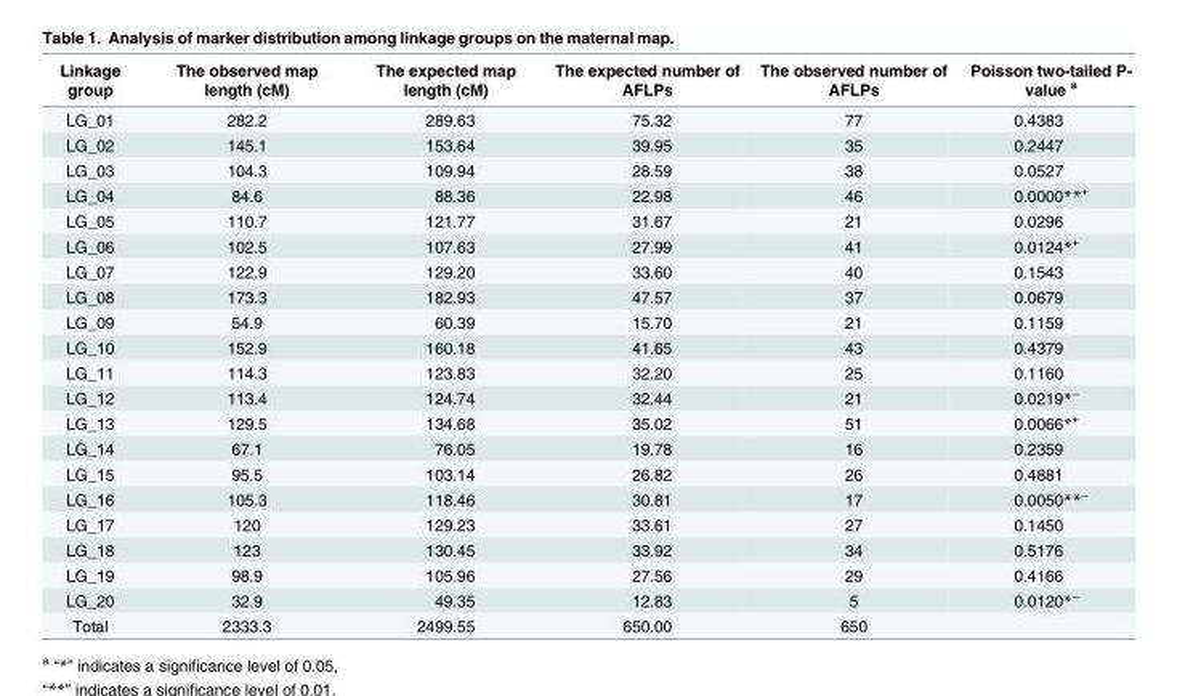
<table><thead><tr><td>Linkage group</td><td>The observed map length (cM)</td><td>The expected map length (cM)</td><td>The expected number of AFLPs</td><td>The observed number of AFLPs</td><td>Poisson two-tailed P- value <sup>a</sup></td></tr></thead><tbody><tr><td>LG_01</td><td>282.2</td><td>289.63</td><td>75.32</td><td>77</td><td>0.4383</td></tr><tr><td>LG_02</td><td>145.1</td><td>153.64</td><td>39.95</td><td>35</td><td>0.2447</td></tr><tr><td>LG_03</td><td>104.3</td><td>109.94</td><td>28.59</td><td>38</td><td>0.0527</td></tr><tr><td>LG_04</td><td>84.6</td><td>88.36</td><td>22.98</td><td>46</td><td>0.0000**<sup>+</sup></td></tr><tr><td>LG_05</td><td>110.7</td><td>121.77</td><td>31.67</td><td>21</td><td>0.0296</td></tr><tr><td>LG_06</td><td>102.5</td><td>107.63</td><td>27.99</td><td>41</td><td>0.0124*<sup>+</sup></td></tr><tr><td>LG_07</td><td>122.9</td><td>129.20</td><td>33.60</td><td>40</td><td>0.1543</td></tr><tr><td>LG_08</td><td>173.3</td><td>182.93</td><td>47.57</td><td>37</td><td>0.0679</td></tr><tr><td>LG_09</td><td>54.9</td><td>60.39</td><td>15.70</td><td>21</td><td>0.1159</td></tr><tr><td>LG_10</td><td>152.9</td><td>160.18</td><td>41.65</td><td>43</td><td>0.4379</td></tr><tr><td>LG_11</td><td>114.3</td><td>123.83</td><td>32.20</td><td>25</td><td>0.1160</td></tr><tr><td>LG_12</td><td>113.4</td><td>124.74</td><td>32.44</td><td>21</td><td>0.0219*<sup>−</sup></td></tr><tr><td>LG_13</td><td>129.5</td><td>134.68</td><td>35.02</td><td>51</td><td>0.0066*<sup>+</sup></td></tr><tr><td>LG_14</td><td>67.1</td><td>76.05</td><td>19.78</td><td>16</td><td>0.2359</td></tr><tr><td>LG_15</td><td>95.5</td><td>103.14</td><td>26.82</td><td>26</td><td>0.4881</td></tr><tr><td>LG_16</td><td>105.3</td><td>118.46</td><td>30.81</td><td>17</td><td>0.0050**<sup>−</sup></td></tr><tr><td>LG_17</td><td>120</td><td>129.23</td><td>33.61</td><td>27</td><td>0.1450</td></tr><tr><td>LG_18</td><td>123</td><td>130.45</td><td>33.92</td><td>34</td><td>0.5176</td></tr><tr><td>LG_19</td><td>98.9</td><td>105.96</td><td>27.56</td><td>29</td><td>0.4166</td></tr><tr><td>LG_20</td><td>32.9</td><td>49.35</td><td>12.83</td><td>5</td><td>0.0120*<sup>−</sup></td></tr><tr><td>Total</td><td>2333.3</td><td>2499.55</td><td>650.00</td><td>650</td><td></td></tr></tbody></table>